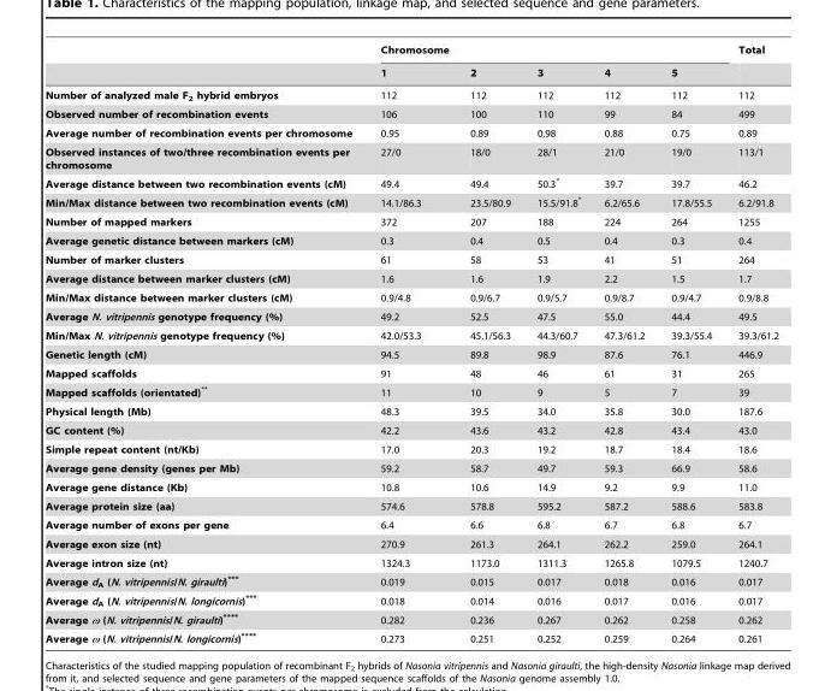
<table><thead><tr><td rowspan="2"></td><td colspan="5">Chromosome</td><td rowspan="2">Total</td></tr><tr><td>1</td><td>2</td><td>3</td><td>4</td><td>5</td></tr></thead><tbody><tr><td>Number of analyzed male F<sub>2</sub> hybrid embryos</td><td>112</td><td>112</td><td>112</td><td>112</td><td>112</td><td>112</td></tr><tr><td>Observed number of recombination events</td><td>106</td><td>100</td><td>110</td><td>99</td><td>84</td><td>499</td></tr><tr><td>Average number of recombination events per chromosome</td><td>0.95</td><td>0.89</td><td>0.98</td><td>0.88</td><td>0.75</td><td>0.89</td></tr><tr><td>Observed instances of two/three recombination events per chromosome</td><td>27/0</td><td>18/0</td><td>28/1</td><td>21/0</td><td>19/0</td><td>113/1</td></tr><tr><td>Average distance between two recombination events (cM)</td><td>49.4</td><td>49.4</td><td>50.3*</td><td>39.7</td><td>39.7</td><td>46.2</td></tr><tr><td>Min/Max distance between two recombination events (cM)</td><td>14.1/86.3</td><td>23.5/80.9</td><td>15.5/91.8*</td><td>6.2/65.6</td><td>17.8/55.5</td><td>6.2/91.8</td></tr><tr><td>Number of mapped markers</td><td>372</td><td>207</td><td>188</td><td>224</td><td>264</td><td>1255</td></tr><tr><td>Average genetic distance between markers (cM)</td><td>0.3</td><td>0.4</td><td>0.5</td><td>0.4</td><td>0.3</td><td>0.4</td></tr><tr><td>Number of marker clusters</td><td>61</td><td>58</td><td>53</td><td>41</td><td>51</td><td>264</td></tr><tr><td>Average distance between marker clusters (cM)</td><td>1.6</td><td>1.6</td><td>1.9</td><td>2.2</td><td>1.5</td><td>1.7</td></tr><tr><td>Min/Max distance between marker clusters (cM)</td><td>0.9/4.8</td><td>0.9/6.7</td><td>0.9/5.7</td><td>0.9/8.7</td><td>0.9/4.7</td><td>0.9/8.8</td></tr><tr><td>Average N. vitripennis genotype frequency (%)</td><td>49.2</td><td>52.5</td><td>47.5</td><td>55.0</td><td>44.4</td><td>49.5</td></tr><tr><td>Min/Max N. vitripennis genotype frequency (%)</td><td>42.0/53.3</td><td>45.1/56.3</td><td>44.3/60.7</td><td>47.3/61.2</td><td>39.3/55.4</td><td>39.3/61.2</td></tr><tr><td>Genetic length (cM)</td><td>94.5</td><td>89.8</td><td>98.9</td><td>87.6</td><td>76.1</td><td>446.9</td></tr><tr><td>Mapped scaffolds</td><td>91</td><td>48</td><td>46</td><td>61</td><td>31</td><td>265</td></tr><tr><td>Mapped scaffolds (orientated)**</td><td>11</td><td>10</td><td>9</td><td>5</td><td>7</td><td>39</td></tr><tr><td>Physical length (Mb)</td><td>48.3</td><td>39.5</td><td>34.0</td><td>35.8</td><td>30.0</td><td>187.6</td></tr><tr><td>GC content (%)</td><td>42.2</td><td>43.6</td><td>43.2</td><td>42.8</td><td>43.4</td><td>43.0</td></tr><tr><td>Simple repeat content (nt/Kb)</td><td>17.0</td><td>20.3</td><td>19.2</td><td>18.7</td><td>18.4</td><td>18.6</td></tr><tr><td>Average gene density (genes per Mb)</td><td>59.2</td><td>58.7</td><td>49.7</td><td>59.3</td><td>66.9</td><td>58.6</td></tr><tr><td>Average gene distance (Kb)</td><td>10.8</td><td>10.6</td><td>14.9</td><td>9.2</td><td>9.9</td><td>11.0</td></tr><tr><td>Average protein size (aa)</td><td>574.6</td><td>578.8</td><td>595.2</td><td>587.2</td><td>588.6</td><td>583.8</td></tr><tr><td>Average number of exons per gene</td><td>6.4</td><td>6.6</td><td>6.8</td><td>6.7</td><td>6.8</td><td>6.7</td></tr><tr><td>Average exon size (nt)</td><td>270.9</td><td>261.3</td><td>264.1</td><td>262.2</td><td>259.0</td><td>264.1</td></tr><tr><td>Average intron size (nt)</td><td>1324.3</td><td>1173.0</td><td>1311.3</td><td>1265.8</td><td>1079.5</td><td>1240.7</td></tr><tr><td>Average d<sub>A</sub> (N. vitripennis/N. giraulti)***</td><td>0.019</td><td>0.015</td><td>0.017</td><td>0.018</td><td>0.016</td><td>0.017</td></tr><tr><td>Average d<sub>A</sub> (N. vitripennis/N. longicornis)***</td><td>0.018</td><td>0.014</td><td>0.016</td><td>0.017</td><td>0.016</td><td>0.017</td></tr><tr><td>Average ω (N. vitripennis/N. giraulti)****</td><td>0.282</td><td>0.236</td><td>0.267</td><td>0.262</td><td>0.258</td><td>0.262</td></tr><tr><td>Average ω (N. vitripennis/N. longicornis)****</td><td>0.273</td><td>0.251</td><td>0.252</td><td>0.259</td><td>0.264</td><td>0.261</td></tr></tbody></table>